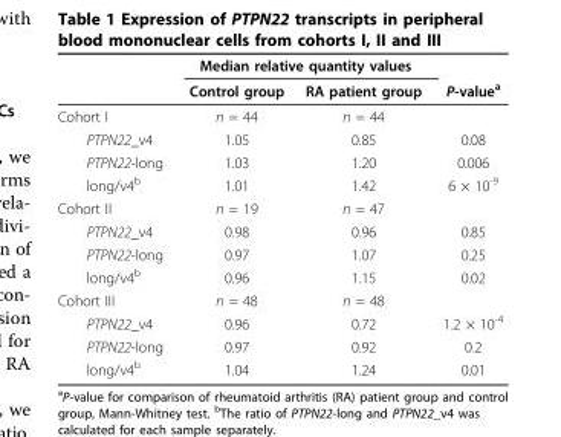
<table><thead><tr><td rowspan="2"></td><td colspan="2">Median relative quantity values</td><td rowspan="2">P-value<sup>a</sup></td></tr><tr><td>Control group</td><td>RA patient group</td></tr></thead><tbody><tr><td>Cohort I</td><td>n = 44</td><td>n = 44</td><td></td></tr><tr><td>PTPN22_v4</td><td>1.05</td><td>0.85</td><td>0.08</td></tr><tr><td>PTPN22-long</td><td>1.03</td><td>1.20</td><td>0.006</td></tr><tr><td>long/v4<sup>b</sup></td><td>1.01</td><td>1.42</td><td>6 × 10<sup>-9</sup></td></tr><tr><td>Cohort II</td><td>n = 19</td><td>n = 47</td><td></td></tr><tr><td>PTPN22_v4</td><td>0.98</td><td>0.96</td><td>0.85</td></tr><tr><td>PTPN22-long</td><td>0.97</td><td>1.07</td><td>0.25</td></tr><tr><td>long/v4<sup>b</sup></td><td>0.96</td><td>1.15</td><td>0.02</td></tr><tr><td>Cohort III</td><td>n = 48</td><td>n = 48</td><td></td></tr><tr><td>PTPN22_v4</td><td>0.96</td><td>0.72</td><td>1.2 × 10<sup>-4</sup></td></tr><tr><td>PTPN22-long</td><td>0.97</td><td>0.92</td><td>0.2</td></tr><tr><td>long/v4<sup>b</sup></td><td>1.04</td><td>1.24</td><td>0.01</td></tr></tbody></table>